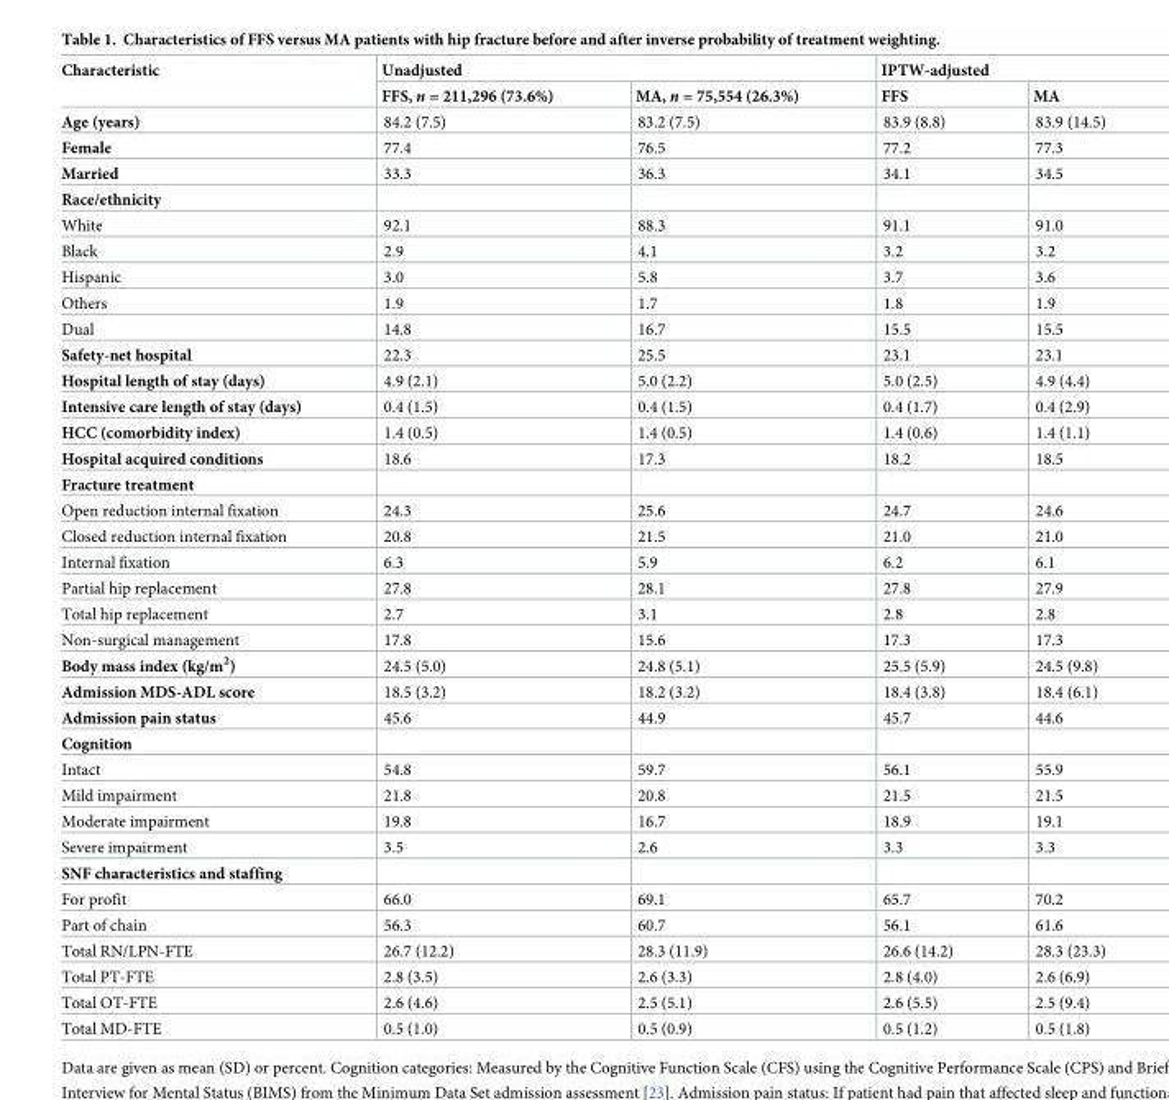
<table><thead><tr><td rowspan="2">Characteristic</td><td colspan="2">Unadjusted</td><td colspan="2">IPTW-adjusted</td></tr><tr><td>FFS, n = 211,296 (73.6%)</td><td>MA, n = 75,554 (26.3%)</td><td>FFS</td><td>MA</td></tr></thead><tbody><tr><td>Age (years)</td><td>84.2 (7.5)</td><td>83.2 (7.5)</td><td>83.9 (8.8)</td><td>83.9 (14.5)</td></tr><tr><td>Female</td><td>77.4</td><td>76.5</td><td>77.2</td><td>77.3</td></tr><tr><td>Married</td><td>33.3</td><td>36.3</td><td>34.1</td><td>34.5</td></tr><tr><td colspan="5">Race/ethnicity</td></tr><tr><td>White</td><td>92.1</td><td>88.3</td><td>91.1</td><td>91.0</td></tr><tr><td>Black</td><td>2.9</td><td>4.1</td><td>3.2</td><td>3.2</td></tr><tr><td>Hispanic</td><td>3.0</td><td>5.8</td><td>3.7</td><td>3.6</td></tr><tr><td>Others</td><td>1.9</td><td>1.7</td><td>1.8</td><td>1.9</td></tr><tr><td>Dual</td><td>14.8</td><td>16.7</td><td>15.5</td><td>15.5</td></tr><tr><td>Safety-net hospital</td><td>22.3</td><td>25.5</td><td>23.1</td><td>23.1</td></tr><tr><td>Hospital length of stay (days)</td><td>4.9 (2.1)</td><td>5.0 (2.2)</td><td>5.0 (2.5)</td><td>4.9 (4.4)</td></tr><tr><td>Intensive care length of stay (days)</td><td>0.4 (1.5)</td><td>0.4 (1.5)</td><td>0.4 (1.7)</td><td>0.4 (2.9)</td></tr><tr><td>HCC (comorbidity index)</td><td>1.4 (0.5)</td><td>1.4 (0.5)</td><td>1.4 (0.6)</td><td>1.4 (1.1)</td></tr><tr><td>Hospital acquired conditions</td><td>18.6</td><td>17.3</td><td>18.2</td><td>18.5</td></tr><tr><td colspan="5">Fracture treatment</td></tr><tr><td>Open reduction internal fixation</td><td>24.3</td><td>25.6</td><td>24.7</td><td>24.6</td></tr><tr><td>Closed reduction internal fixation</td><td>20.8</td><td>21.5</td><td>21.0</td><td>21.0</td></tr><tr><td>Internal fixation</td><td>6.3</td><td>5.9</td><td>6.2</td><td>6.1</td></tr><tr><td>Partial hip replacement</td><td>27.8</td><td>28.1</td><td>27.8</td><td>27.9</td></tr><tr><td>Total hip replacement</td><td>2.7</td><td>3.1</td><td>2.8</td><td>2.8</td></tr><tr><td>Non-surgical management</td><td>17.8</td><td>15.6</td><td>17.3</td><td>17.3</td></tr><tr><td>Body mass index (kg/m<sup>2</sup>)</td><td>24.5 (5.0)</td><td>24.8 (5.1)</td><td>25.5 (5.9)</td><td>24.5 (9.8)</td></tr><tr><td>Admission MDS-ADL score</td><td>18.5 (3.2)</td><td>18.2 (3.2)</td><td>18.4 (3.8)</td><td>18.4 (6.1)</td></tr><tr><td>Admission pain status</td><td>45.6</td><td>44.9</td><td>45.7</td><td>44.6</td></tr><tr><td colspan="5">Cognition</td></tr><tr><td>Intact</td><td>54.8</td><td>59.7</td><td>56.1</td><td>55.9</td></tr><tr><td>Mild impairment</td><td>21.8</td><td>20.8</td><td>21.5</td><td>21.5</td></tr><tr><td>Moderate impairment</td><td>19.8</td><td>16.7</td><td>18.9</td><td>19.1</td></tr><tr><td>Severe impairment</td><td>3.5</td><td>2.6</td><td>3.3</td><td>3.3</td></tr><tr><td colspan="5">SNF characteristics and staffing</td></tr><tr><td>For profit</td><td>66.0</td><td>69.1</td><td>65.7</td><td>70.2</td></tr><tr><td>Part of chain</td><td>56.3</td><td>60.7</td><td>56.1</td><td>61.6</td></tr><tr><td>Total RN/LPN-FTE</td><td>26.7 (12.2)</td><td>28.3 (11.9)</td><td>26.6 (14.2)</td><td>28.3 (23.3)</td></tr><tr><td>Total PT-FTE</td><td>2.8 (3.5)</td><td>2.6 (3.3)</td><td>2.8 (4.0)</td><td>2.6 (6.9)</td></tr><tr><td>Total OT-FTE</td><td>2.6 (4.6)</td><td>2.5 (5.1)</td><td>2.6 (5.5)</td><td>2.5 (9.4)</td></tr><tr><td>Total MD-FTE</td><td>0.5 (1.0)</td><td>0.5 (0.9)</td><td>0.5 (1.2)</td><td>0.5 (1.8)</td></tr></tbody></table>